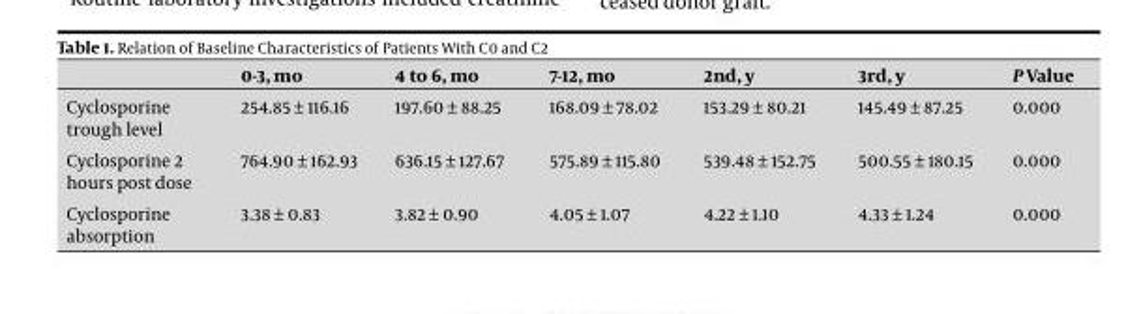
<table><thead><tr><td></td><td>0-3, mo</td><td>4 to 6, mo</td><td>7-12, mo</td><td>2nd, y</td><td>3rd, y</td><td>P Value</td></tr></thead><tbody><tr><td>Cyclosporine trough level</td><td>254.85 ± 116.16</td><td>197.60 ± 88.25</td><td>168.09 ± 78.02</td><td>153.29 ± 80.21</td><td>145.49 ± 87.25</td><td>0.000</td></tr><tr><td>Cyclosporine 2 hours post dose</td><td>764.90 ± 162.93</td><td>636.15 ± 127.67</td><td>575.89 ± 115.80</td><td>539.48 ± 152.75</td><td>500.55 ± 180.15</td><td>0.000</td></tr><tr><td>Cyclosporine absorption</td><td>3.38 ± 0.83</td><td>3.82 ± 0.90</td><td>4.05 ± 1.07</td><td>4.22 ± 1.10</td><td>4.33 ± 1.24</td><td>0.000</td></tr></tbody></table>